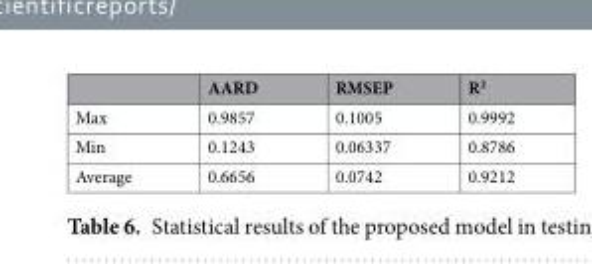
<table><thead><tr><td></td><td>AARD</td><td>RMSEP</td><td>R<sup>2</sup></td></tr></thead><tbody><tr><td>Max</td><td>0.9857</td><td>0.1005</td><td>0.9992</td></tr><tr><td>Min</td><td>0.1243</td><td>0.06337</td><td>0.8786</td></tr><tr><td>Average</td><td>0.6656</td><td>0.0742</td><td>0.9212</td></tr></tbody></table>